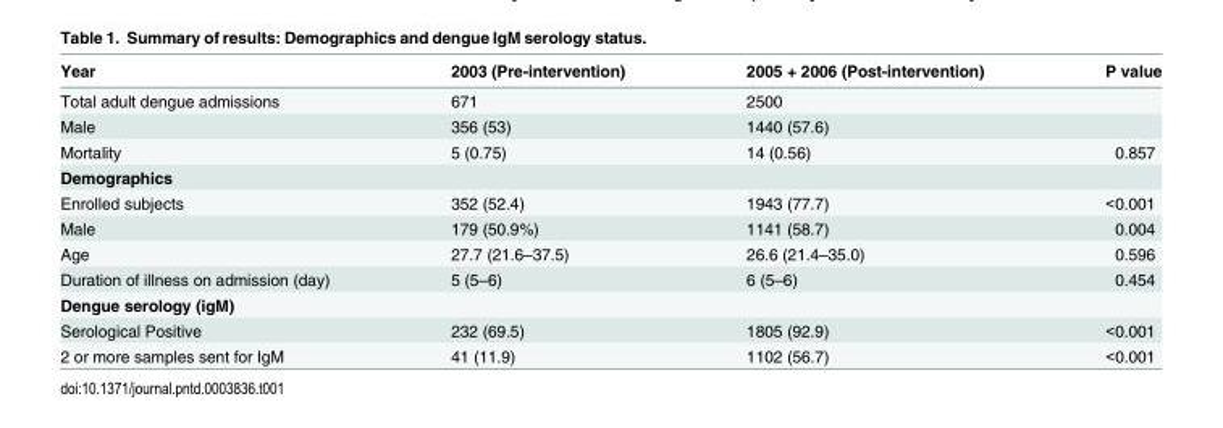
<table><thead><tr><td>Year</td><td>2003 (Pre-intervention)</td><td>2005 + 2006 (Post-intervention)</td><td>P value</td></tr></thead><tbody><tr><td>Total adult dengue admissions</td><td>671</td><td>2500</td><td></td></tr><tr><td>Male</td><td>356 (53)</td><td>1440 (57.6)</td><td></td></tr><tr><td>Mortality</td><td>5 (0.75)</td><td>14 (0.56)</td><td>0.857</td></tr><tr><td colspan="4">Demographics</td></tr><tr><td>Enrolled subjects</td><td>352 (52.4)</td><td>1943 (77.7)</td><td>&lt;0.001</td></tr><tr><td>Male</td><td>179 (50.9%)</td><td>1141 (58.7)</td><td>0.004</td></tr><tr><td>Age</td><td>27.7 (21.6–37.5)</td><td>26.6 (21.4–35.0)</td><td>0.596</td></tr><tr><td>Duration of illness on admission (day)</td><td>5 (5–6)</td><td>6 (5–6)</td><td>0.454</td></tr><tr><td colspan="4">Dengue serology (igM)</td></tr><tr><td>Serological Positive</td><td>232 (69.5)</td><td>1805 (92.9)</td><td>&lt;0.001</td></tr><tr><td>2 or more samples sent for IgM</td><td>41 (11.9)</td><td>1102 (56.7)</td><td>&lt;0.001</td></tr></tbody></table>